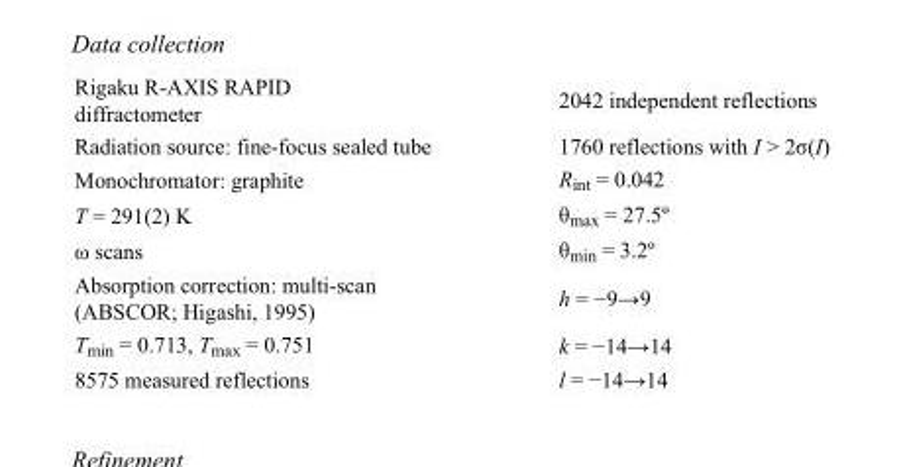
<table><tbody><tr><td>Rigaku R-AXIS RAPID diffractometer</td><td>2042 independent reflections</td></tr><tr><td>Radiation source: fine-focus sealed tube</td><td>1760 reflections with I &gt; 2σ(I)</td></tr><tr><td>Monochromator: graphite</td><td>R<sub>int</sub> = 0.042</td></tr><tr><td>T = 291(2) K</td><td>θ<sub>max</sub> = 27.5º</td></tr><tr><td>ω scans</td><td>θ<sub>min</sub> = 3.2º</td></tr><tr><td>Absorption correction: multi-scan (ABSCOR; Higashi, 1995)</td><td>h = −9→9</td></tr><tr><td>T<sub>min</sub> = 0.713, T<sub>max</sub> = 0.751</td><td>k = −14→14</td></tr><tr><td>8575 measured reflections</td><td>l = −14→14</td></tr></tbody></table>